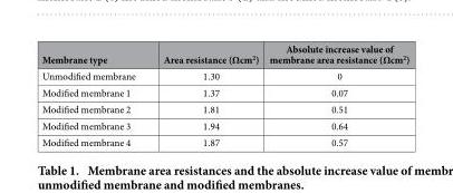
<table><thead><tr><td>Membrane type</td><td>Area resistance (Ωcm<sup>2</sup>)</td><td>Absolute increase value of membrane area resistance (Ωcm<sup>2</sup>)</td></tr></thead><tbody><tr><td>Unmodified membrane</td><td>1.30</td><td>0</td></tr><tr><td>Modified membrane 1</td><td>1.37</td><td>0.07</td></tr><tr><td>Modified membrane 2</td><td>1.81</td><td>0.51</td></tr><tr><td>Modified membrane 3</td><td>1.94</td><td>0.64</td></tr><tr><td>Modified membrane 4</td><td>1.87</td><td>0.57</td></tr></tbody></table>